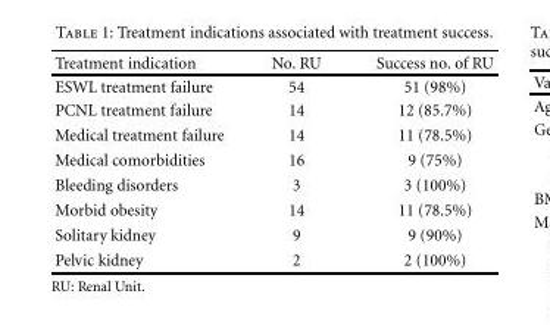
<table><thead><tr><td>Treatment indication</td><td>No. RU</td><td>Success no. of RU</td></tr></thead><tbody><tr><td>ESWL treatment failure</td><td>54</td><td>51 (98%)</td></tr><tr><td>PCNL treatment failure</td><td>14</td><td>12 (85.7%)</td></tr><tr><td>Medical treatment failure</td><td>14</td><td>11 (78.5%)</td></tr><tr><td>Medical comorbidities</td><td>16</td><td>9 (75%)</td></tr><tr><td>Bleeding disorders</td><td>3</td><td>3 (100%)</td></tr><tr><td>Morbid obesity</td><td>14</td><td>11 (78.5%)</td></tr><tr><td>Solitary kidney</td><td>9</td><td>9 (90%)</td></tr><tr><td>Pelvic kidney</td><td>2</td><td>2 (100%)</td></tr></tbody></table>